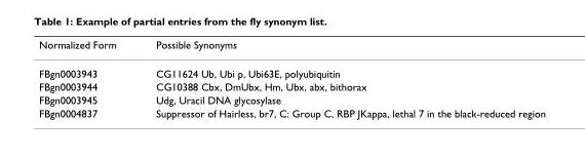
<table><thead><tr><td>Normalized Form</td><td>Possible Synonyms</td></tr></thead><tbody><tr><td>FBgn0003943</td><td>CG11624 Ub, Ubi p, Ubi63E, polyubiquitin</td></tr><tr><td>FBgn0003944</td><td>CG10388 Cbx, DmUbx, Hm, Ubx, abx, bithorax</td></tr><tr><td>FBgn0003945</td><td>Udg, Uracil DNA glycosylase</td></tr><tr><td>FBgn0004837</td><td>Suppressor of Hairless, br7, C: Group C, RBP JKappa, lethal 7 in the black-reduced region</td></tr></tbody></table>